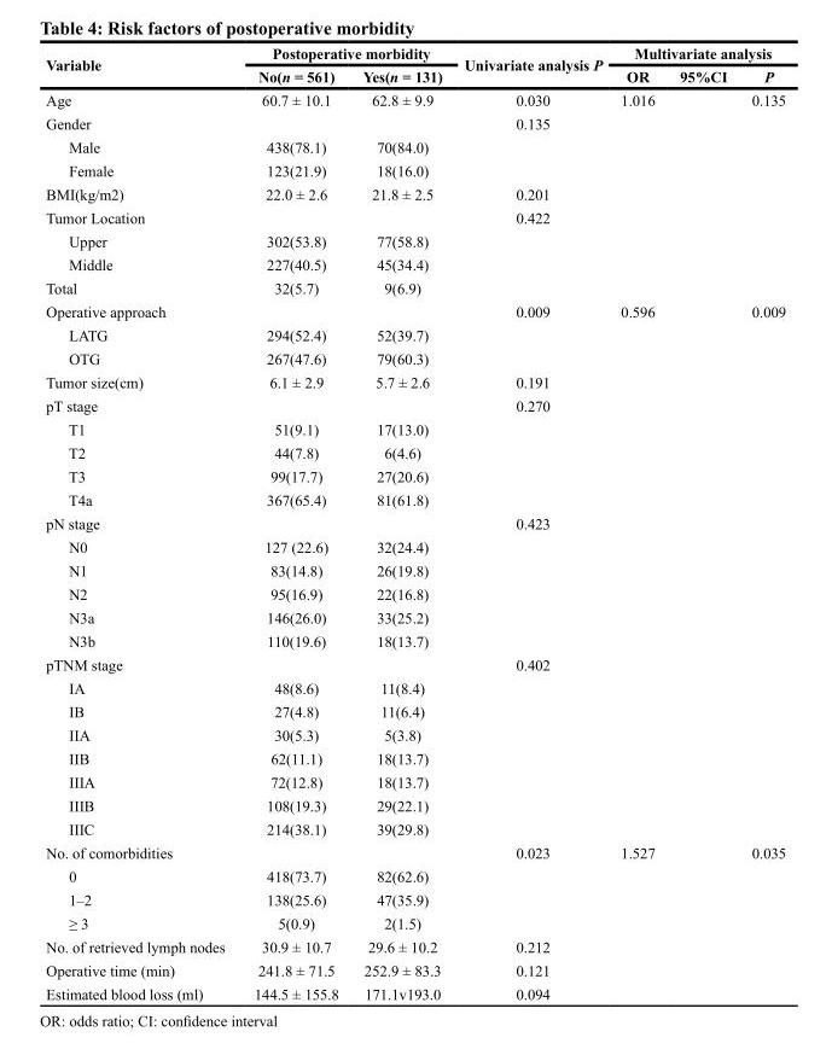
<table><thead><tr><td rowspan="2">Variable</td><td colspan="2">Postoperative morbidity</td><td rowspan="2">Univariate analysis P</td><td colspan="3">Multivariate analysis</td></tr><tr><td>No(n = 561)</td><td>Yes(n = 131)</td><td>OR</td><td>95%CI</td><td>P</td></tr></thead><tbody><tr><td>Age</td><td>60.7 ± 10.1</td><td>62.8 ± 9.9</td><td>0.030</td><td>1.016</td><td></td><td>0.135</td></tr><tr><td>Gender</td><td></td><td></td><td>0.135</td><td></td><td></td><td></td></tr><tr><td>Male</td><td>438(78.1)</td><td>70(84.0)</td><td></td><td></td><td></td><td></td></tr><tr><td>Female</td><td>123(21.9)</td><td>18(16.0)</td><td></td><td></td><td></td><td></td></tr><tr><td>BMI(kg/m2)</td><td>22.0 ± 2.6</td><td>21.8 ± 2.5</td><td>0.201</td><td></td><td></td><td></td></tr><tr><td>Tumor Location</td><td></td><td></td><td>0.422</td><td></td><td></td><td></td></tr><tr><td>Upper</td><td>302(53.8)</td><td>77(58.8)</td><td></td><td></td><td></td><td></td></tr><tr><td>Middle</td><td>227(40.5)</td><td>45(34.4)</td><td></td><td></td><td></td><td></td></tr><tr><td>Total</td><td>32(5.7)</td><td>9(6.9)</td><td></td><td></td><td></td><td></td></tr><tr><td>Operative approach</td><td></td><td></td><td>0.009</td><td>0.596</td><td></td><td>0.009</td></tr><tr><td>LATG</td><td>294(52.4)</td><td>52(39.7)</td><td></td><td></td><td></td><td></td></tr><tr><td>OTG</td><td>267(47.6)</td><td>79(60.3)</td><td></td><td></td><td></td><td></td></tr><tr><td>Tumor size(cm)</td><td>6.1 ± 2.9</td><td>5.7 ± 2.6</td><td>0.191</td><td></td><td></td><td></td></tr><tr><td>pT stage</td><td></td><td></td><td>0.270</td><td></td><td></td><td></td></tr><tr><td>T1</td><td>51(9.1)</td><td>17(13.0)</td><td></td><td></td><td></td><td></td></tr><tr><td>T2</td><td>44(7.8)</td><td>6(4.6)</td><td></td><td></td><td></td><td></td></tr><tr><td>T3</td><td>99(17.7)</td><td>27(20.6)</td><td></td><td></td><td></td><td></td></tr><tr><td>T4a</td><td>367(65.4)</td><td>81(61.8)</td><td></td><td></td><td></td><td></td></tr><tr><td>pN stage</td><td></td><td></td><td>0.423</td><td></td><td></td><td></td></tr><tr><td>N0</td><td>127 (22.6)</td><td>32(24.4)</td><td></td><td></td><td></td><td></td></tr><tr><td>N1</td><td>83(14.8)</td><td>26(19.8)</td><td></td><td></td><td></td><td></td></tr><tr><td>N2</td><td>95(16.9)</td><td>22(16.8)</td><td></td><td></td><td></td><td></td></tr><tr><td>N3a</td><td>146(26.0)</td><td>33(25.2)</td><td></td><td></td><td></td><td></td></tr><tr><td>N3b</td><td>110(19.6)</td><td>18(13.7)</td><td></td><td></td><td></td><td></td></tr><tr><td>pTNM stage</td><td></td><td></td><td>0.402</td><td></td><td></td><td></td></tr><tr><td>IA</td><td>48(8.6)</td><td>11(8.4)</td><td></td><td></td><td></td><td></td></tr><tr><td>IB</td><td>27(4.8)</td><td>11(6.4)</td><td></td><td></td><td></td><td></td></tr><tr><td>IIA</td><td>30(5.3)</td><td>5(3.8)</td><td></td><td></td><td></td><td></td></tr><tr><td>IIB</td><td>62(11.1)</td><td>18(13.7)</td><td></td><td></td><td></td><td></td></tr><tr><td>IIIA</td><td>72(12.8)</td><td>18(13.7)</td><td></td><td></td><td></td><td></td></tr><tr><td>IIIB</td><td>108(19.3)</td><td>29(22.1)</td><td></td><td></td><td></td><td></td></tr><tr><td>IIIC</td><td>214(38.1)</td><td>39(29.8)</td><td></td><td></td><td></td><td></td></tr><tr><td>No. of comorbidities</td><td></td><td></td><td>0.023</td><td>1.527</td><td></td><td>0.035</td></tr><tr><td>0</td><td>418(73.7)</td><td>82(62.6)</td><td></td><td></td><td></td><td></td></tr><tr><td>1–2</td><td>138(25.6)</td><td>47(35.9)</td><td></td><td></td><td></td><td></td></tr><tr><td>≥ 3</td><td>5(0.9)</td><td>2(1.5)</td><td></td><td></td><td></td><td></td></tr><tr><td>No. of retrieved lymph nodes</td><td>30.9 ± 10.7</td><td>29.6 ± 10.2</td><td>0.212</td><td></td><td></td><td></td></tr><tr><td>Operative time (min)</td><td>241.8 ± 71.5</td><td>252.9 ± 83.3</td><td>0.121</td><td></td><td></td><td></td></tr><tr><td>Estimated blood loss (ml)</td><td>144.5 ± 155.8</td><td>171.1v193.0</td><td>0.094</td><td></td><td></td><td></td></tr></tbody></table>